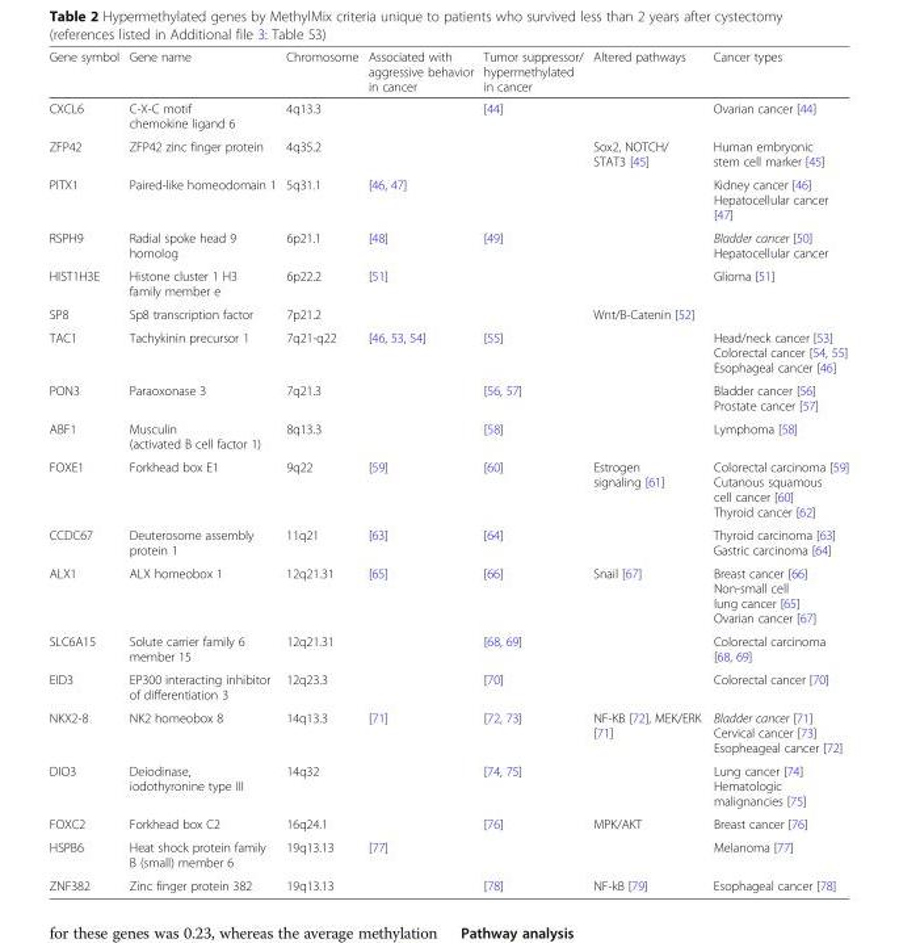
<table><thead><tr><td>Gene symbol</td><td>Gene name</td><td>Chromosome</td><td>Associated with aggressive behavior in cancer</td><td>Tumor suppressor/ hypermethylated in cancer</td><td>Altered pathways</td><td>Cancer types</td></tr></thead><tbody><tr><td>CXCL6</td><td>C-X-C motif chemokine ligand 6</td><td>4q13.3</td><td></td><td>[44]</td><td></td><td>Ovarian cancer [44]</td></tr><tr><td>ZFP42</td><td>ZFP42 zinc finger protein</td><td>4q35.2</td><td></td><td></td><td>Sox2, NOTCH/ STAT3 [45]</td><td>Human embryonic stem cell marker [45]</td></tr><tr><td>PITX1</td><td>Paired-like homeodomain 1</td><td>5q31.1</td><td>[46, 47]</td><td></td><td></td><td>Kidney cancer [46] Hepatocellular cancer [47]</td></tr><tr><td>RSPH9</td><td>Radial spoke head 9 homolog</td><td>6p21.1</td><td>[48]</td><td>[49]</td><td></td><td>Bladder cancer [50] Hepatocellular cancer</td></tr><tr><td>HIST1H3E</td><td>Histone cluster 1 H3 family member e</td><td>6p22.2</td><td>[51]</td><td></td><td></td><td>Glioma [51]</td></tr><tr><td>SP8</td><td>Sp8 transcription factor</td><td>7p21.2</td><td></td><td></td><td>Wnt/B-Catenin [52]</td><td></td></tr><tr><td>TAC1</td><td>Tachykinin precursor 1</td><td>7q21-q22</td><td>[46, 53, 54]</td><td>[55]</td><td></td><td>Head/neck cancer [53] Colorectal cancer [54, 55] Esophageal cancer [46]</td></tr><tr><td>PON3</td><td>Paraoxonase 3</td><td>7q21.3</td><td></td><td>[56, 57]</td><td></td><td>Bladder cancer [56] Prostate cancer [57]</td></tr><tr><td>ABF1</td><td>Musculin (activated B cell factor 1)</td><td>8q13.3</td><td></td><td>[58]</td><td></td><td>Lymphoma [58]</td></tr><tr><td>FOXE1</td><td>Forkhead box E1</td><td>9q22</td><td>[59]</td><td>[60]</td><td>Estrogen signaling [61]</td><td>Colorectal carcinoma [59] Cutanous squamous cell cancer [60] Thyroid cancer [62]</td></tr><tr><td>CCDC67</td><td>Deuterosome assembly protein 1</td><td>11q21</td><td>[63]</td><td>[64]</td><td></td><td>Thyroid carcinoma [63] Gastric carcinoma [64]</td></tr><tr><td>ALX1</td><td>ALX homeobox 1</td><td>12q21.31</td><td>[65]</td><td>[66]</td><td>Snail [67]</td><td>Breast cancer [66] Non-small cell lung cancer [65] Ovarian cancer [67]</td></tr><tr><td>SLC6A15</td><td>Solute carrier family 6 member 15</td><td>12q21.31</td><td></td><td>[68, 69]</td><td></td><td>Colorectal carcinoma [68, 69]</td></tr><tr><td>EID3</td><td>EP300 interacting inhibitor of differentiation 3</td><td>12q23.3</td><td></td><td>[70]</td><td></td><td>Colorectal cancer [70]</td></tr><tr><td>NKX2-8</td><td>NK2 homeobox 8</td><td>14q13.3</td><td>[71]</td><td>[72, 73]</td><td>NF-KB [72], MEK/ERK [71]</td><td>Bladder cancer [71] Cervical cancer [73] Esopheageal cancer [72]</td></tr><tr><td>DIO3</td><td>Deiodinase, iodothyronine type III</td><td>14q32</td><td></td><td>[74, 75]</td><td></td><td>Lung cancer [74] Hematologic malignancies [75]</td></tr><tr><td>FOXC2</td><td>Forkhead box C2</td><td>16q24.1</td><td></td><td>[76]</td><td>MPK/AKT</td><td>Breast cancer [76]</td></tr><tr><td>HSPB6</td><td>Heat shock protein family B (small) member 6</td><td>19q13.13</td><td>[77]</td><td></td><td></td><td>Melanoma [77]</td></tr><tr><td>ZNF382</td><td>Zinc finger protein 382</td><td>19q13.13</td><td></td><td>[78]</td><td>NF-kB [79]</td><td>Esophageal cancer [78]</td></tr></tbody></table>